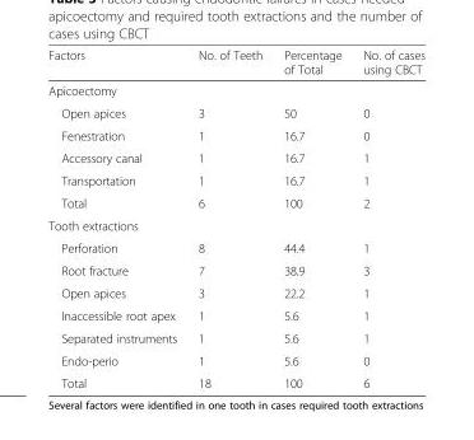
<table><thead><tr><td>Factors</td><td>No. of Teeth</td><td>Percentage of Total</td><td>No. of cases using CBCT</td></tr></thead><tbody><tr><td colspan="4">Apicoectomy</td></tr><tr><td>Open apices</td><td>3</td><td>50</td><td>0</td></tr><tr><td>Fenestration</td><td>1</td><td>16.7</td><td>0</td></tr><tr><td>Accessory canal</td><td>1</td><td>16.7</td><td>1</td></tr><tr><td>Transportation</td><td>1</td><td>16.7</td><td>1</td></tr><tr><td>Total</td><td>6</td><td>100</td><td>2</td></tr><tr><td colspan="4">Tooth extractions</td></tr><tr><td>Perforation</td><td>8</td><td>44.4</td><td>1</td></tr><tr><td>Root fracture</td><td>7</td><td>38.9</td><td>3</td></tr><tr><td>Open apices</td><td>3</td><td>22.2</td><td>1</td></tr><tr><td>Inaccessible root apex</td><td>1</td><td>5.6</td><td>1</td></tr><tr><td>Separated instruments</td><td>1</td><td>5.6</td><td>1</td></tr><tr><td>Endo-perio</td><td>1</td><td>5.6</td><td>0</td></tr><tr><td>Total</td><td>18</td><td>100</td><td>6</td></tr></tbody></table>